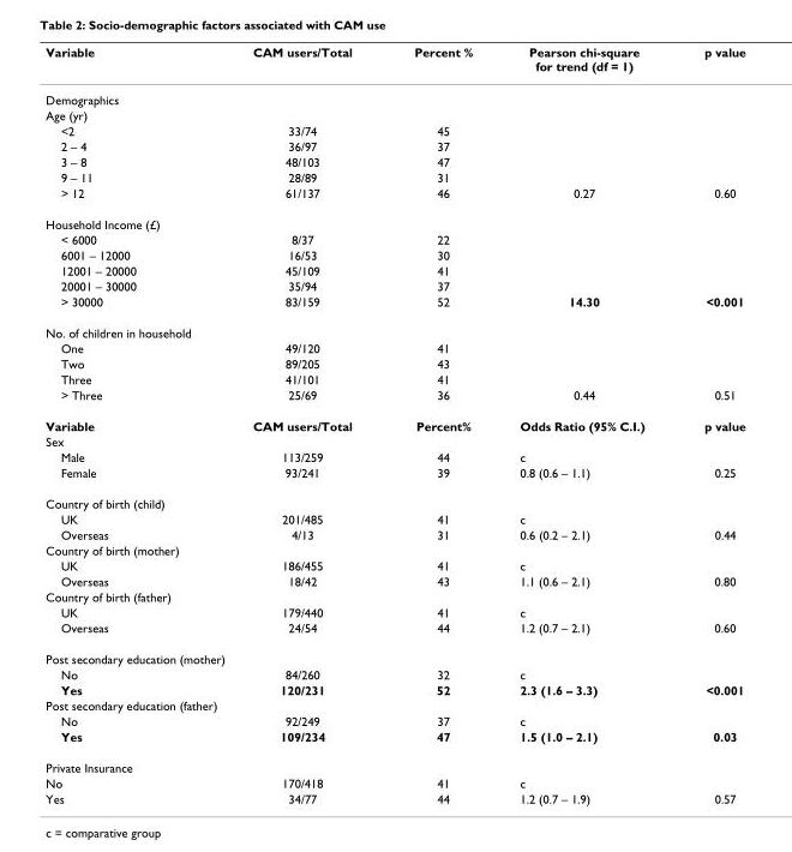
<table><thead><tr><td>Variable</td><td>CAM users/Total</td><td>Percent %</td><td>Pearson chi-square for trend (df = 1)</td><td>p value</td></tr></thead><tbody><tr><td colspan="5">Demographics</td></tr><tr><td colspan="5">Age (yr)</td></tr><tr><td>&lt;2</td><td>33/74</td><td>45</td><td></td><td></td></tr><tr><td>2 – 4</td><td>36/97</td><td>37</td><td></td><td></td></tr><tr><td>3 – 8</td><td>48/103</td><td>47</td><td></td><td></td></tr><tr><td>9 – 11</td><td>28/89</td><td>31</td><td></td><td></td></tr><tr><td>&gt; 12</td><td>61/137</td><td>46</td><td>0.27</td><td>0.60</td></tr><tr><td colspan="5">Household Income (£)</td></tr><tr><td>&lt; 6000</td><td>8/37</td><td>22</td><td></td><td></td></tr><tr><td>6001 – 12000</td><td>16/53</td><td>30</td><td></td><td></td></tr><tr><td>12001 – 20000</td><td>45/109</td><td>41</td><td></td><td></td></tr><tr><td>20001 – 30000</td><td>35/94</td><td>37</td><td></td><td></td></tr><tr><td>&gt; 30000</td><td>83/159</td><td>52</td><td>14.30</td><td>&lt;0.001</td></tr><tr><td colspan="5">No. of children in household</td></tr><tr><td>One</td><td>49/120</td><td>41</td><td></td><td></td></tr><tr><td>Two</td><td>89/205</td><td>43</td><td></td><td></td></tr><tr><td>Three</td><td>41/101</td><td>41</td><td></td><td></td></tr><tr><td>&gt; Three</td><td>25/69</td><td>36</td><td>0.44</td><td>0.51</td></tr><tr><td>Variable</td><td>CAM users/Total</td><td>Percent%</td><td>Odds Ratio (95% C.I.)</td><td>p value</td></tr><tr><td colspan="5">Sex</td></tr><tr><td>Male</td><td>113/259</td><td>44</td><td>c</td><td></td></tr><tr><td>Female</td><td>93/241</td><td>39</td><td>0.8 (0.6 – 1.1)</td><td>0.25</td></tr><tr><td colspan="5">Country of birth (child)</td></tr><tr><td>UK</td><td>201/485</td><td>41</td><td>c</td><td></td></tr><tr><td>Overseas</td><td>4/13</td><td>31</td><td>0.6 (0.2 – 2.1)</td><td>0.44</td></tr><tr><td colspan="5">Country of birth (mother)</td></tr><tr><td>UK</td><td>186/455</td><td>41</td><td>c</td><td></td></tr><tr><td>Overseas</td><td>18/42</td><td>43</td><td>1.1 (0.6 – 2.1)</td><td>0.80</td></tr><tr><td colspan="5">Country of birth (father)</td></tr><tr><td>UK</td><td>179/440</td><td>41</td><td>c</td><td></td></tr><tr><td>Overseas</td><td>24/54</td><td>44</td><td>1.2 (0.7 – 2.1)</td><td>0.60</td></tr><tr><td colspan="5">Post secondary education (mother)</td></tr><tr><td>No</td><td>84/260</td><td>32</td><td>c</td><td></td></tr><tr><td>Yes</td><td>120/231</td><td>52</td><td>2.3 (1.6 – 3.3)</td><td>&lt;0.001</td></tr><tr><td colspan="5">Post secondary education (father)</td></tr><tr><td>No</td><td>92/249</td><td>37</td><td>c</td><td></td></tr><tr><td>Yes</td><td>109/234</td><td>47</td><td>1.5 (1.0 – 2.1)</td><td>0.03</td></tr><tr><td colspan="5">Private Insurance</td></tr><tr><td>No</td><td>170/418</td><td>41</td><td>c</td><td></td></tr><tr><td>Yes</td><td>34/77</td><td>44</td><td>1.2 (0.7 – 1.9)</td><td>0.57</td></tr></tbody></table>